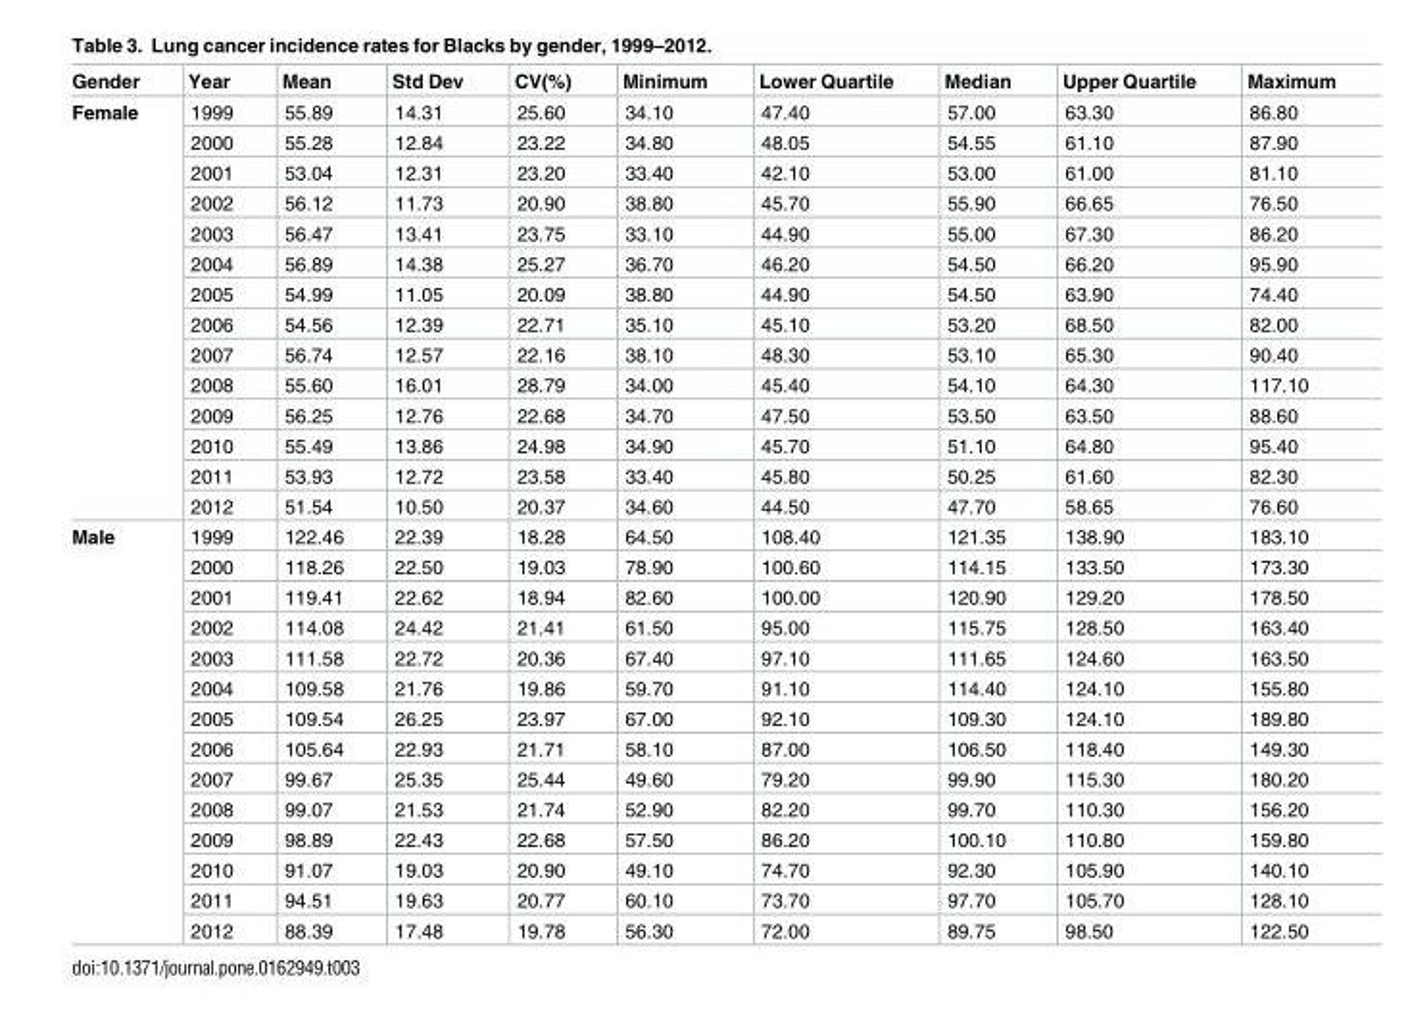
<table><thead><tr><td>Gender</td><td>Year</td><td>Mean</td><td>Std Dev</td><td>CV(%)</td><td>Minimum</td><td>Lower Quartile</td><td>Median</td><td>Upper Quartile</td><td>Maximum</td></tr></thead><tbody><tr><td rowspan="14">Female</td><td>1999</td><td>55.89</td><td>14.31</td><td>25.60</td><td>34.10</td><td>47.40</td><td>57.00</td><td>63.30</td><td>86.80</td></tr><tr><td>2000</td><td>55.28</td><td>12.84</td><td>23.22</td><td>34.80</td><td>48.05</td><td>54.55</td><td>61.10</td><td>87.90</td></tr><tr><td>2001</td><td>53.04</td><td>12.31</td><td>23.20</td><td>33.40</td><td>42.10</td><td>53.00</td><td>61.00</td><td>81.10</td></tr><tr><td>2002</td><td>56.12</td><td>11.73</td><td>20.90</td><td>38.80</td><td>45.70</td><td>55.90</td><td>66.65</td><td>76.50</td></tr><tr><td>2003</td><td>56.47</td><td>13.41</td><td>23.75</td><td>33.10</td><td>44.90</td><td>55.00</td><td>67.30</td><td>86.20</td></tr><tr><td>2004</td><td>56.89</td><td>14.38</td><td>25.27</td><td>36.70</td><td>46.20</td><td>54.50</td><td>66.20</td><td>95.90</td></tr><tr><td>2005</td><td>54.99</td><td>11.05</td><td>20.09</td><td>38.80</td><td>44.90</td><td>54.50</td><td>63.90</td><td>74.40</td></tr><tr><td>2006</td><td>54.56</td><td>12.39</td><td>22.71</td><td>35.10</td><td>45.10</td><td>53.20</td><td>68.50</td><td>82.00</td></tr><tr><td>2007</td><td>56.74</td><td>12.57</td><td>22.16</td><td>38.10</td><td>48.30</td><td>53.10</td><td>65.30</td><td>90.40</td></tr><tr><td>2008</td><td>55.60</td><td>16.01</td><td>28.79</td><td>34.00</td><td>45.40</td><td>54.10</td><td>64.30</td><td>117.10</td></tr><tr><td>2009</td><td>56.25</td><td>12.76</td><td>22.68</td><td>34.70</td><td>47.50</td><td>53.50</td><td>63.50</td><td>88.60</td></tr><tr><td>2010</td><td>55.49</td><td>13.86</td><td>24.98</td><td>34.90</td><td>45.70</td><td>51.10</td><td>64.80</td><td>95.40</td></tr><tr><td>2011</td><td>53.93</td><td>12.72</td><td>23.58</td><td>33.40</td><td>45.80</td><td>50.25</td><td>61.60</td><td>82.30</td></tr><tr><td>2012</td><td>51.54</td><td>10.50</td><td>20.37</td><td>34.60</td><td>44.50</td><td>47.70</td><td>58.65</td><td>76.60</td></tr><tr><td rowspan="14">Male</td><td>1999</td><td>122.46</td><td>22.39</td><td>18.28</td><td>64.50</td><td>108.40</td><td>121.35</td><td>138.90</td><td>183.10</td></tr><tr><td>2000</td><td>118.26</td><td>22.50</td><td>19.03</td><td>78.90</td><td>100.60</td><td>114.15</td><td>133.50</td><td>173.30</td></tr><tr><td>2001</td><td>119.41</td><td>22.62</td><td>18.94</td><td>82.60</td><td>100.00</td><td>120.90</td><td>129.20</td><td>178.50</td></tr><tr><td>2002</td><td>114.08</td><td>24.42</td><td>21.41</td><td>61.50</td><td>95.00</td><td>115.75</td><td>128.50</td><td>163.40</td></tr><tr><td>2003</td><td>111.58</td><td>22.72</td><td>20.36</td><td>67.40</td><td>97.10</td><td>111.65</td><td>124.60</td><td>163.50</td></tr><tr><td>2004</td><td>109.58</td><td>21.76</td><td>19.86</td><td>59.70</td><td>91.10</td><td>114.40</td><td>124.10</td><td>155.80</td></tr><tr><td>2005</td><td>109.54</td><td>26.25</td><td>23.97</td><td>67.00</td><td>92.10</td><td>109.30</td><td>124.10</td><td>189.80</td></tr><tr><td>2006</td><td>105.64</td><td>22.93</td><td>21.71</td><td>58.10</td><td>87.00</td><td>106.50</td><td>118.40</td><td>149.30</td></tr><tr><td>2007</td><td>99.67</td><td>25.35</td><td>25.44</td><td>49.60</td><td>79.20</td><td>99.90</td><td>115.30</td><td>180.20</td></tr><tr><td>2008</td><td>99.07</td><td>21.53</td><td>21.74</td><td>52.90</td><td>82.20</td><td>99.70</td><td>110.30</td><td>156.20</td></tr><tr><td>2009</td><td>98.89</td><td>22.43</td><td>22.68</td><td>57.50</td><td>86.20</td><td>100.10</td><td>110.80</td><td>159.80</td></tr><tr><td>2010</td><td>91.07</td><td>19.03</td><td>20.90</td><td>49.10</td><td>74.70</td><td>92.30</td><td>105.90</td><td>140.10</td></tr><tr><td>2011</td><td>94.51</td><td>19.63</td><td>20.77</td><td>60.10</td><td>73.70</td><td>97.70</td><td>105.70</td><td>128.10</td></tr><tr><td>2012</td><td>88.39</td><td>17.48</td><td>19.78</td><td>56.30</td><td>72.00</td><td>89.75</td><td>98.50</td><td>122.50</td></tr></tbody></table>